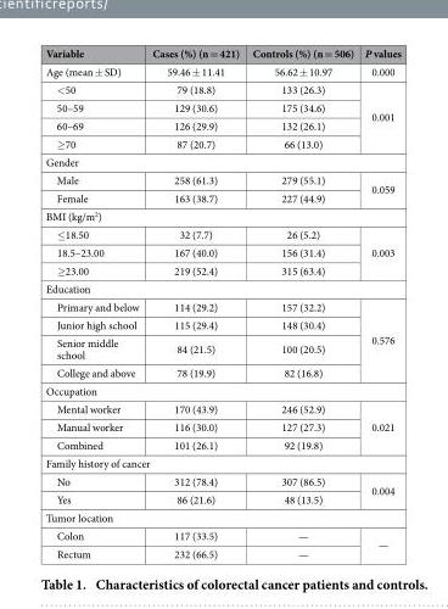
<table><thead><tr><td>Variable</td><td>Cases (%) (n = 421)</td><td>Controls (%) (n = 506)</td><td>P values</td></tr></thead><tbody><tr><td>Age (mean ± SD)</td><td>59.46 ± 11.41</td><td>56.62 ± 10.97</td><td>0.000</td></tr><tr><td>&lt; 50</td><td>79 (18.8)</td><td>133 (26.3)</td><td rowspan="4">0.001</td></tr><tr><td>50–59</td><td>129 (30.6)</td><td>175 (34.6)</td></tr><tr><td>60–69</td><td>126 (29.9)</td><td>132 (26.1)</td></tr><tr><td>≥ 70</td><td>87 (20.7)</td><td>66 (13.0)</td></tr><tr><td colspan="4">Gender</td></tr><tr><td>Male</td><td>258 (61.3)</td><td>279 (55.1)</td><td rowspan="2">0.059</td></tr><tr><td>Female</td><td>163 (38.7)</td><td>227 (44.9)</td></tr><tr><td colspan="4">BMI (kg/m<sup>2</sup>)</td></tr><tr><td>≤ 18.50</td><td>32 (7.7)</td><td>26 (5.2)</td><td rowspan="3">0.003</td></tr><tr><td>18.5–23.00</td><td>167 (40.0)</td><td>156 (31.4)</td></tr><tr><td>≥ 23.00</td><td>219 (52.4)</td><td>315 (63.4)</td></tr><tr><td colspan="4">Education</td></tr><tr><td>Primary and below</td><td>114 (29.2)</td><td>157 (32.2)</td><td rowspan="4">0.576</td></tr><tr><td>Junior high school</td><td>115 (29.4)</td><td>148 (30.4)</td></tr><tr><td>Senior middle school</td><td>84 (21.5)</td><td>100 (20.5)</td></tr><tr><td>College and above</td><td>78 (19.9)</td><td>82 (16.8)</td></tr><tr><td colspan="4">Occupation</td></tr><tr><td>Mental worker</td><td>170 (43.9)</td><td>246 (52.9)</td><td rowspan="3">0.021</td></tr><tr><td>Manual worker</td><td>116 (30.0)</td><td>127 (27.3)</td></tr><tr><td>Combined</td><td>101 (26.1)</td><td>92 (19.8)</td></tr><tr><td colspan="4">Family history of cancer</td></tr><tr><td>No</td><td>312 (78.4)</td><td>307 (86.5)</td><td rowspan="2">0.004</td></tr><tr><td>Yes</td><td>86 (21.6)</td><td>48 (13.5)</td></tr><tr><td colspan="4">Tumor location</td></tr><tr><td>Colon</td><td>117 (33.5)</td><td>—</td><td rowspan="2">—</td></tr><tr><td>Rectum</td><td>232 (66.5)</td><td>—</td></tr></tbody></table>